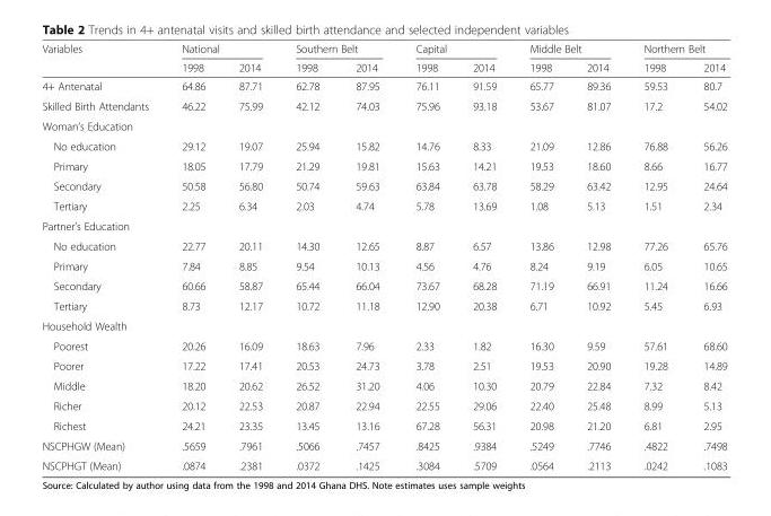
<table><thead><tr><td rowspan="2">Variables</td><td colspan="2">National</td><td colspan="2">Southern Belt</td><td colspan="2">Capital</td><td colspan="2">Middle Belt</td><td colspan="2">Northern Belt</td></tr><tr><td>1998</td><td>2014</td><td>1998</td><td>2014</td><td>1998</td><td>2014</td><td>1998</td><td>2014</td><td>1998</td><td>2014</td></tr></thead><tbody><tr><td>4+ Antenatal</td><td>64.86</td><td>87.71</td><td>62.78</td><td>87.95</td><td>76.11</td><td>91.59</td><td>65.77</td><td>89.36</td><td>59.53</td><td>80.7</td></tr><tr><td>Skilled Birth Attendants</td><td>46.22</td><td>75.99</td><td>42.12</td><td>74.03</td><td>75.96</td><td>93.18</td><td>53.67</td><td>81.07</td><td>17.2</td><td>54.02</td></tr><tr><td colspan="11">Woman’s Education</td></tr><tr><td>No education</td><td>29.12</td><td>19.07</td><td>25.94</td><td>15.82</td><td>14.76</td><td>8.33</td><td>21.09</td><td>12.86</td><td>76.88</td><td>56.26</td></tr><tr><td>Primary</td><td>18.05</td><td>17.79</td><td>21.29</td><td>19.81</td><td>15.63</td><td>14.21</td><td>19.53</td><td>18.60</td><td>8.66</td><td>16.77</td></tr><tr><td>Secondary</td><td>50.58</td><td>56.80</td><td>50.74</td><td>59.63</td><td>63.84</td><td>63.78</td><td>58.29</td><td>63.42</td><td>12.95</td><td>24.64</td></tr><tr><td>Tertiary</td><td>2.25</td><td>6.34</td><td>2.03</td><td>4.74</td><td>5.78</td><td>13.69</td><td>1.08</td><td>5.13</td><td>1.51</td><td>2.34</td></tr><tr><td colspan="11">Partner’s Education</td></tr><tr><td>No education</td><td>22.77</td><td>20.11</td><td>14.30</td><td>12.65</td><td>8.87</td><td>6.57</td><td>13.86</td><td>12.98</td><td>77.26</td><td>65.76</td></tr><tr><td>Primary</td><td>7.84</td><td>8.85</td><td>9.54</td><td>10.13</td><td>4.56</td><td>4.76</td><td>8.24</td><td>9.19</td><td>6.05</td><td>10.65</td></tr><tr><td>Secondary</td><td>60.66</td><td>58.87</td><td>65.44</td><td>66.04</td><td>73.67</td><td>68.28</td><td>71.19</td><td>66.91</td><td>11.24</td><td>16.66</td></tr><tr><td>Tertiary</td><td>8.73</td><td>12.17</td><td>10.72</td><td>11.18</td><td>12.90</td><td>20.38</td><td>6.71</td><td>10.92</td><td>5.45</td><td>6.93</td></tr><tr><td colspan="11">Household Wealth</td></tr><tr><td>Poorest</td><td>20.26</td><td>16.09</td><td>18.63</td><td>7.96</td><td>2.33</td><td>1.82</td><td>16.30</td><td>9.59</td><td>57.61</td><td>68.60</td></tr><tr><td>Poorer</td><td>17.22</td><td>17.41</td><td>20.53</td><td>24.73</td><td>3.78</td><td>2.51</td><td>19.53</td><td>20.90</td><td>19.28</td><td>14.89</td></tr><tr><td>Middle</td><td>18.20</td><td>20.62</td><td>26.52</td><td>31.20</td><td>4.06</td><td>10.30</td><td>20.79</td><td>22.84</td><td>7.32</td><td>8.42</td></tr><tr><td>Richer</td><td>20.12</td><td>22.53</td><td>20.87</td><td>22.94</td><td>22.55</td><td>29.06</td><td>22.40</td><td>25.48</td><td>8.99</td><td>5.13</td></tr><tr><td>Richest</td><td>24.21</td><td>23.35</td><td>13.45</td><td>13.16</td><td>67.28</td><td>56.31</td><td>20.98</td><td>21.20</td><td>6.81</td><td>2.95</td></tr><tr><td>NSCPHGW (Mean)</td><td>.5659</td><td>.7961</td><td>.5066</td><td>.7457</td><td>.8425</td><td>.9384</td><td>.5249</td><td>.7746</td><td>.4822</td><td>.7498</td></tr><tr><td>NSCPHGT (Mean)</td><td>.0874</td><td>.2381</td><td>.0372</td><td>.1425</td><td>.3084</td><td>.5709</td><td>.0564</td><td>.2113</td><td>.0242</td><td>.1083</td></tr></tbody></table>